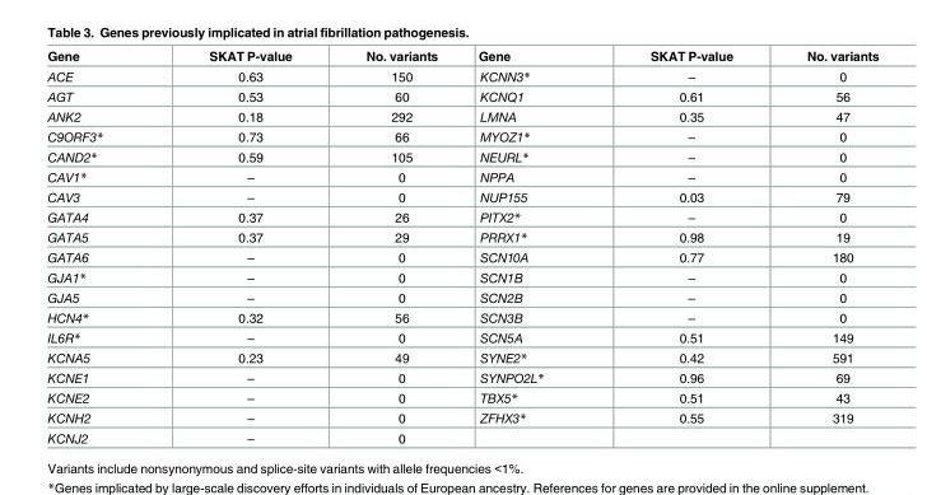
<table><thead><tr><td>Gene</td><td>SKAT P-value</td><td>No. variants</td><td>Gene</td><td>SKAT P-value</td><td>No. variants</td></tr></thead><tbody><tr><td>ACE</td><td>0.63</td><td>150</td><td>KCNN3*</td><td>–</td><td>0</td></tr><tr><td>AGT</td><td>0.53</td><td>60</td><td>KCNQ1</td><td>0.61</td><td>56</td></tr><tr><td>ANK2</td><td>0.18</td><td>292</td><td>LMNA</td><td>0.35</td><td>47</td></tr><tr><td>C9ORF3*</td><td>0.73</td><td>66</td><td>MYOZ1*</td><td>–</td><td>0</td></tr><tr><td>CAND2*</td><td>0.59</td><td>105</td><td>NEURL*</td><td>–</td><td>0</td></tr><tr><td>CAV1*</td><td>–</td><td>0</td><td>NPPA</td><td>–</td><td>0</td></tr><tr><td>CAV3</td><td>–</td><td>0</td><td>NUP155</td><td>0.03</td><td>79</td></tr><tr><td>GATA4</td><td>0.37</td><td>26</td><td>PITX2*</td><td>–</td><td>0</td></tr><tr><td>GATA5</td><td>0.37</td><td>29</td><td>PRRX1*</td><td>0.98</td><td>19</td></tr><tr><td>GATA6</td><td>–</td><td>0</td><td>SCN10A</td><td>0.77</td><td>180</td></tr><tr><td>GJA1*</td><td>–</td><td>0</td><td>SCN1B</td><td>–</td><td>0</td></tr><tr><td>GJA5</td><td>–</td><td>0</td><td>SCN2B</td><td>–</td><td>0</td></tr><tr><td>HCN4*</td><td>0.32</td><td>56</td><td>SCN3B</td><td>–</td><td>0</td></tr><tr><td>IL6R*</td><td>–</td><td>0</td><td>SCN5A</td><td>0.51</td><td>149</td></tr><tr><td>KCNA5</td><td>0.23</td><td>49</td><td>SYNE2*</td><td>0.42</td><td>591</td></tr><tr><td>KCNE1</td><td>–</td><td>0</td><td>SYNPO2L*</td><td>0.96</td><td>69</td></tr><tr><td>KCNE2</td><td>–</td><td>0</td><td>TBX5*</td><td>0.51</td><td>43</td></tr><tr><td>KCNH2</td><td>–</td><td>0</td><td>ZFHX3*</td><td>0.55</td><td>319</td></tr><tr><td>KCNJ2</td><td>–</td><td>0</td><td></td><td></td><td></td></tr></tbody></table>